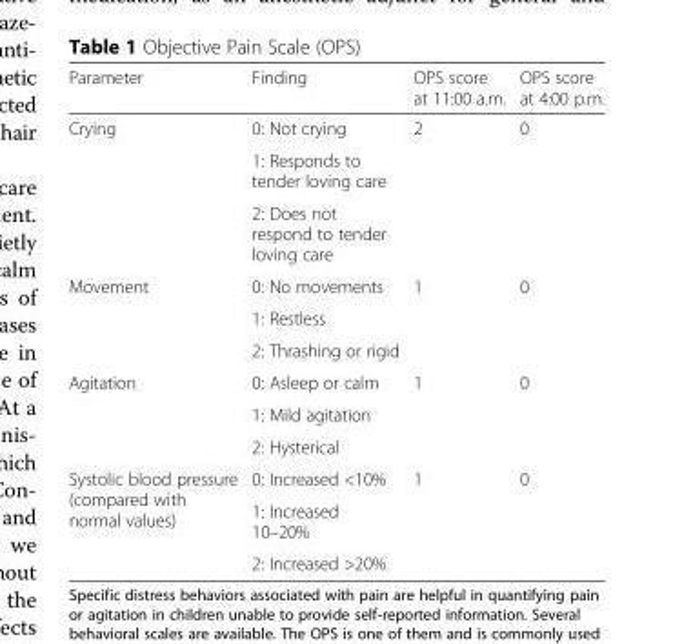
<table><thead><tr><td>Parameter</td><td>Finding</td><td>OPS score at 11:00 a.m.</td><td>OPS score at 4:00 p.m.</td></tr></thead><tbody><tr><td rowspan="3">Crying</td><td>0: Not crying</td><td rowspan="3">2</td><td rowspan="3">0</td></tr><tr><td>1: Responds to tender loving care</td></tr><tr><td>2: Does not respond to tender loving care</td></tr><tr><td rowspan="3">Movement</td><td>0: No movements</td><td rowspan="3">1</td><td rowspan="3">0</td></tr><tr><td>1: Restless</td></tr><tr><td>2: Thrashing or rigid</td></tr><tr><td rowspan="3">Agitation</td><td>0: Asleep or calm</td><td rowspan="3">1</td><td rowspan="3">0</td></tr><tr><td>1: Mild agitation</td></tr><tr><td>2: Hysterical</td></tr><tr><td rowspan="3">Systolic blood pressure (compared with normal values)</td><td>0: Increased &lt;10%</td><td rowspan="3">1</td><td rowspan="3">0</td></tr><tr><td>1: Increased 10–20%</td></tr><tr><td>2: Increased &gt;20%</td></tr></tbody></table>